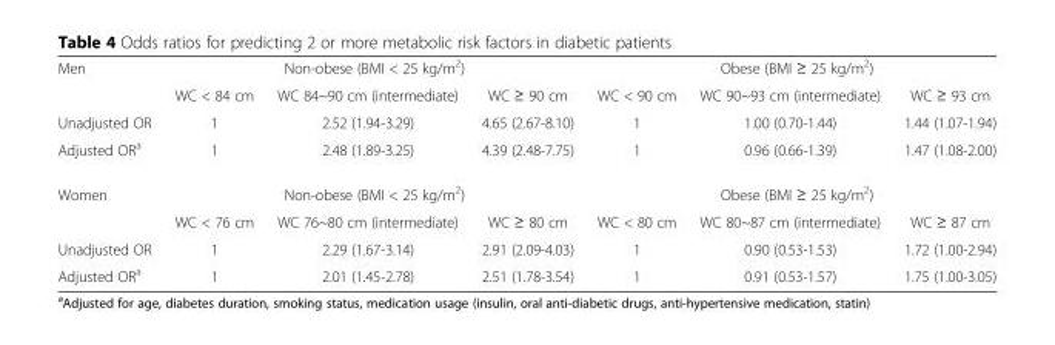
<table><tbody><tr><td rowspan="2">Men</td><td colspan="3">Non-obese (BMI &lt; 25 kg/m<sup>2</sup>)</td><td colspan="3">Obese (BMI ≥ 25 kg/m<sup>2</sup>)</td></tr><tr><td>WC &lt; 84 cm</td><td>WC 84~90 cm (intermediate)</td><td>WC ≥ 90 cm</td><td>WC &lt; 90 cm</td><td>WC 90~93 cm (intermediate)</td><td>WC ≥ 93 cm</td></tr><tr><td>Unadjusted OR</td><td>1</td><td>2.52 (1.94-3.29)</td><td>4.65 (2.67-8.10)</td><td>1</td><td>1.00 (0.70-1.44)</td><td>1.44 (1.07-1.94)</td></tr><tr><td>Adjusted OR<sup>a</sup></td><td>1</td><td>2.48 (1.89-3.25)</td><td>4.39 (2.48-7.75)</td><td>1</td><td>0.96 (0.66-1.39)</td><td>1.47 (1.08-2.00)</td></tr><tr><td rowspan="2">Women</td><td colspan="3">Non-obese (BMI &lt; 25 kg/m<sup>2</sup>)</td><td colspan="3">Obese (BMI ≥ 25 kg/m<sup>2</sup>)</td></tr><tr><td>WC &lt; 76 cm</td><td>WC 76~80 cm (intermediate)</td><td>WC ≥ 80 cm</td><td>WC &lt; 80 cm</td><td>WC 80~87 cm (intermediate)</td><td>WC ≥ 87 cm</td></tr><tr><td>Unadjusted OR</td><td>1</td><td>2.29 (1.67-3.14)</td><td>2.91 (2.09-4.03)</td><td>1</td><td>0.90 (0.53-1.53)</td><td>1.72 (1.00-2.94)</td></tr><tr><td>Adjusted OR<sup>a</sup></td><td>1</td><td>2.01 (1.45-2.78)</td><td>2.51 (1.78-3.54)</td><td>1</td><td>0.91 (0.53-1.57)</td><td>1.75 (1.00-3.05)</td></tr></tbody></table>